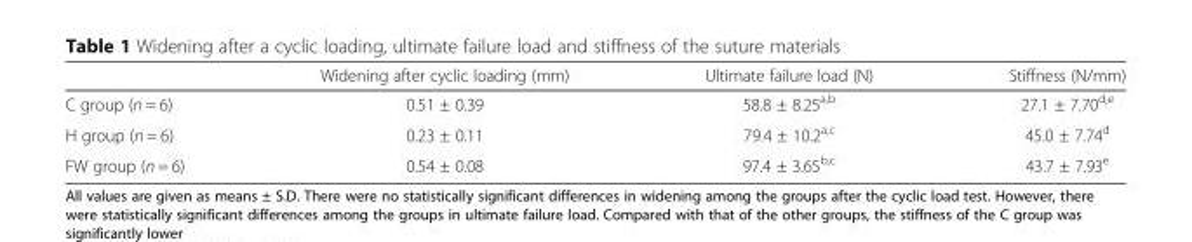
<table><thead><tr><td></td><td>Widening after cyclic loading (mm)</td><td>Ultimate failure load (N)</td><td>Stiffness (N/mm)</td></tr></thead><tbody><tr><td>C group (n = 6)</td><td>0.51 ± 0.39</td><td>58.8 ± 8.25<sup>a,b</sup></td><td>27.1 ± 7.70<sup>d,e</sup></td></tr><tr><td>H group (n = 6)</td><td>0.23 ± 0.11</td><td>79.4 ± 10.2<sup>a,c</sup></td><td>45.0 ± 7.74<sup>d</sup></td></tr><tr><td>FW group (n = 6)</td><td>0.54 ± 0.08</td><td>97.4 ± 3.65<sup>b,c</sup></td><td>43.7 ± 7.93<sup>e</sup></td></tr></tbody></table>